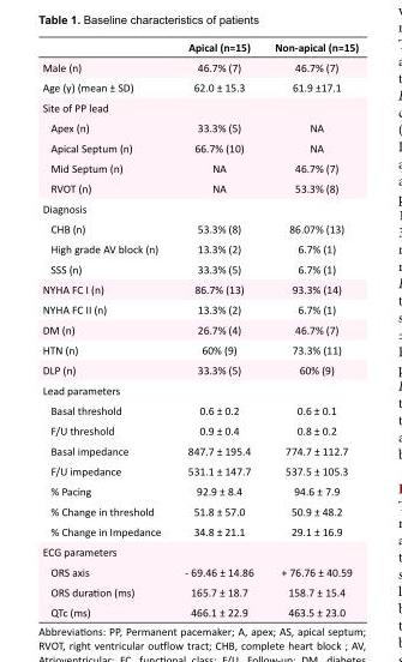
<table><thead><tr><td></td><td>Apical (n=15)</td><td>Non-apical (n=15)</td></tr></thead><tbody><tr><td>Male (n)</td><td>46.7% (7)</td><td>46.7% (7)</td></tr><tr><td>Age (y) (mean ± SD)</td><td>62.0 ± 15.3</td><td>61.9 ±17.1</td></tr><tr><td colspan="3">Site of PP lead</td></tr><tr><td>Apex (n)</td><td>33.3% (5)</td><td>NA</td></tr><tr><td>Apical Septum (n)</td><td>66.7% (10)</td><td>NA</td></tr><tr><td>Mid Septum (n)</td><td>NA</td><td>46.7% (7)</td></tr><tr><td>RVOT (n)</td><td>NA</td><td>53.3% (8)</td></tr><tr><td colspan="3">Diagnosis</td></tr><tr><td>CHB (n)</td><td>53.3% (8)</td><td>86.07% (13)</td></tr><tr><td>High grade AV block (n)</td><td>13.3% (2)</td><td>6.7% (1)</td></tr><tr><td>SSS (n)</td><td>33.3% (5)</td><td>6.7% (1)</td></tr><tr><td>NYHA FC I (n)</td><td>86.7% (13)</td><td>93.3% (14)</td></tr><tr><td>NYHA FC II (n)</td><td>13.3% (2)</td><td>6.7% (1)</td></tr><tr><td>DM (n)</td><td>26.7% (4)</td><td>46.7% (7)</td></tr><tr><td>HTN (n)</td><td>60% (9)</td><td>73.3% (11)</td></tr><tr><td>DLP (n)</td><td>33.3% (5)</td><td>60% (9)</td></tr><tr><td colspan="3">Lead parameters</td></tr><tr><td>Basal threshold</td><td>0.6 ± 0.2</td><td>0.6 ± 0.1</td></tr><tr><td>F/U threshold</td><td>0.9 ± 0.4</td><td>0.8 ± 0.2</td></tr><tr><td>Basal impedance</td><td>847.7 ± 195.4</td><td>774.7 ± 112.7</td></tr><tr><td>F/U impedance</td><td>531.1 ± 147.7</td><td>537.5 ± 105.3</td></tr><tr><td>% Pacing</td><td>92.9 ± 8.4</td><td>94.6 ± 7.9</td></tr><tr><td>% Change in threshold</td><td>51.8 ± 57.0</td><td>50.9 ± 48.2</td></tr><tr><td>% Change in Impedance</td><td>34.8 ± 21.1</td><td>29.1 ± 16.9</td></tr><tr><td colspan="3">ECG parameters</td></tr><tr><td>ORS axis</td><td>- 69.46 ± 14.86</td><td>+ 76.76 ± 40.59</td></tr><tr><td>ORS duration (ms)</td><td>165.7 ± 18.7</td><td>158.7 ± 15.4</td></tr><tr><td>QTc (ms)</td><td>466.1 ± 22.9</td><td>463.5 ± 23.0</td></tr></tbody></table>